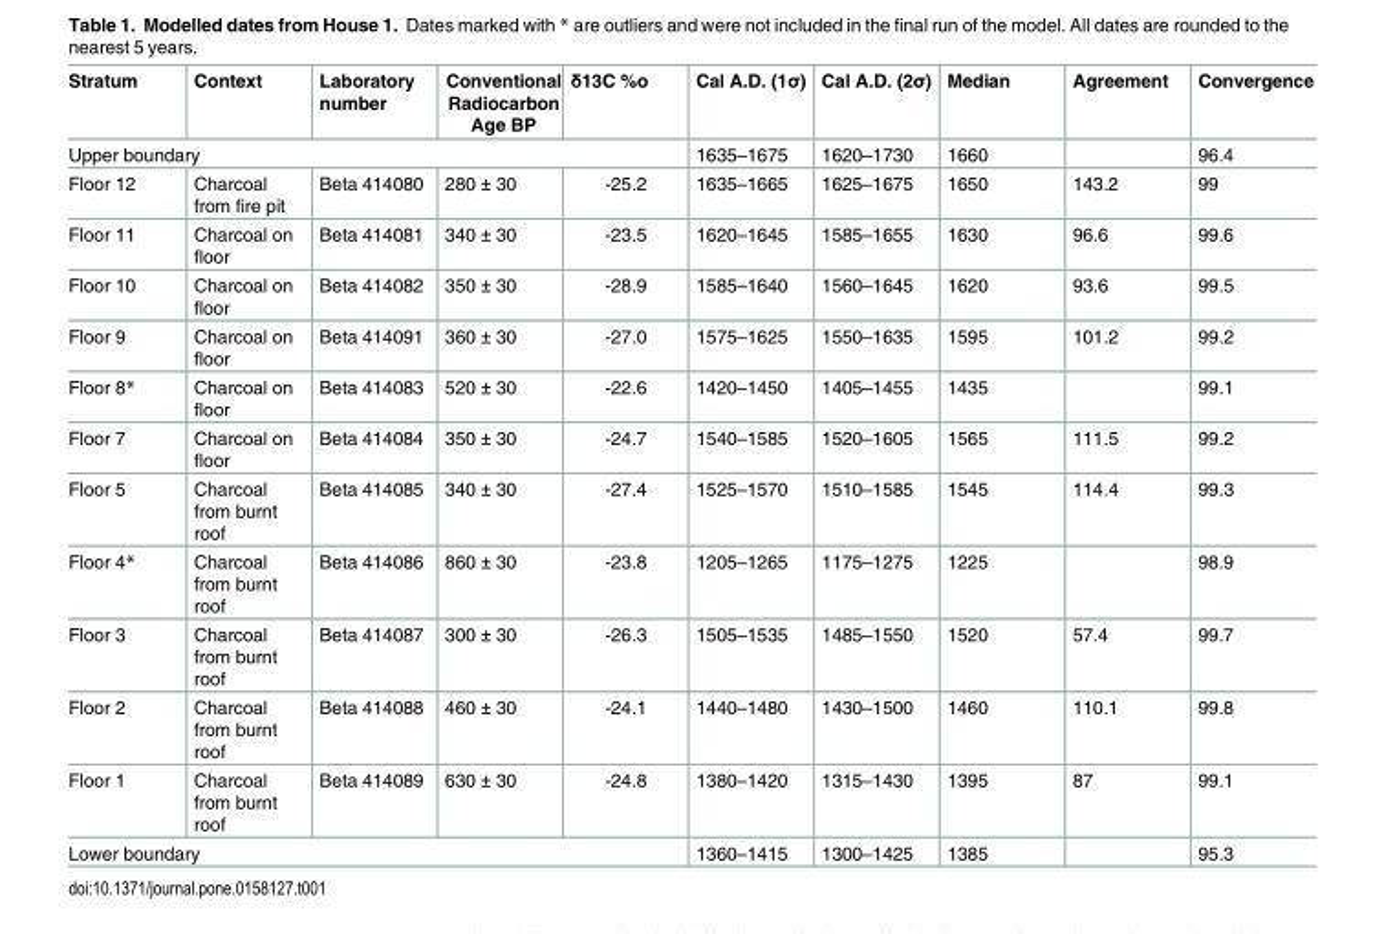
<table><thead><tr><td>Stratum</td><td>Context</td><td>Laboratory number</td><td>Conventional Radiocarbon Age BP</td><td>δ13C %o</td><td>Cal A.D. (1σ)</td><td>Cal A.D. (2σ)</td><td>Median</td><td>Agreement</td><td>Convergence</td></tr></thead><tbody><tr><td colspan="5">Upper boundary</td><td>1635–1675</td><td>1620–1730</td><td>1660</td><td></td><td>96.4</td></tr><tr><td>Floor 12</td><td>Charcoal from fire pit</td><td>Beta 414080</td><td>280 ± 30</td><td>-25.2</td><td>1635–1665</td><td>1625–1675</td><td>1650</td><td>143.2</td><td>99</td></tr><tr><td>Floor 11</td><td>Charcoal on floor</td><td>Beta 414081</td><td>340 ± 30</td><td>-23.5</td><td>1620–1645</td><td>1585–1655</td><td>1630</td><td>96.6</td><td>99.6</td></tr><tr><td>Floor 10</td><td>Charcoal on floor</td><td>Beta 414082</td><td>350 ± 30</td><td>-28.9</td><td>1585–1640</td><td>1560–1645</td><td>1620</td><td>93.6</td><td>99.5</td></tr><tr><td>Floor 9</td><td>Charcoal on floor</td><td>Beta 414091</td><td>360 ± 30</td><td>-27.0</td><td>1575–1625</td><td>1550–1635</td><td>1595</td><td>101.2</td><td>99.2</td></tr><tr><td>Floor 8*</td><td>Charcoal on floor</td><td>Beta 414083</td><td>520 ± 30</td><td>-22.6</td><td>1420–1450</td><td>1405–1455</td><td>1435</td><td></td><td>99.1</td></tr><tr><td>Floor 7</td><td>Charcoal on floor</td><td>Beta 414084</td><td>350 ± 30</td><td>-24.7</td><td>1540–1585</td><td>1520–1605</td><td>1565</td><td>111.5</td><td>99.2</td></tr><tr><td>Floor 5</td><td>Charcoal from burnt roof</td><td>Beta 414085</td><td>340 ± 30</td><td>-27.4</td><td>1525–1570</td><td>1510–1585</td><td>1545</td><td>114.4</td><td>99.3</td></tr><tr><td>Floor 4*</td><td>Charcoal from burnt roof</td><td>Beta 414086</td><td>860 ± 30</td><td>-23.8</td><td>1205–1265</td><td>1175–1275</td><td>1225</td><td></td><td>98.9</td></tr><tr><td>Floor 3</td><td>Charcoal from burnt roof</td><td>Beta 414087</td><td>300 ± 30</td><td>-26.3</td><td>1505–1535</td><td>1485–1550</td><td>1520</td><td>57.4</td><td>99.7</td></tr><tr><td>Floor 2</td><td>Charcoal from burnt roof</td><td>Beta 414088</td><td>460 ± 30</td><td>-24.1</td><td>1440–1480</td><td>1430–1500</td><td>1460</td><td>110.1</td><td>99.8</td></tr><tr><td>Floor 1</td><td>Charcoal from burnt roof</td><td>Beta 414089</td><td>630 ± 30</td><td>-24.8</td><td>1380–1420</td><td>1315–1430</td><td>1395</td><td>87</td><td>99.1</td></tr><tr><td colspan="5">Lower boundary</td><td>1360–1415</td><td>1300–1425</td><td>1385</td><td></td><td>95.3</td></tr></tbody></table>